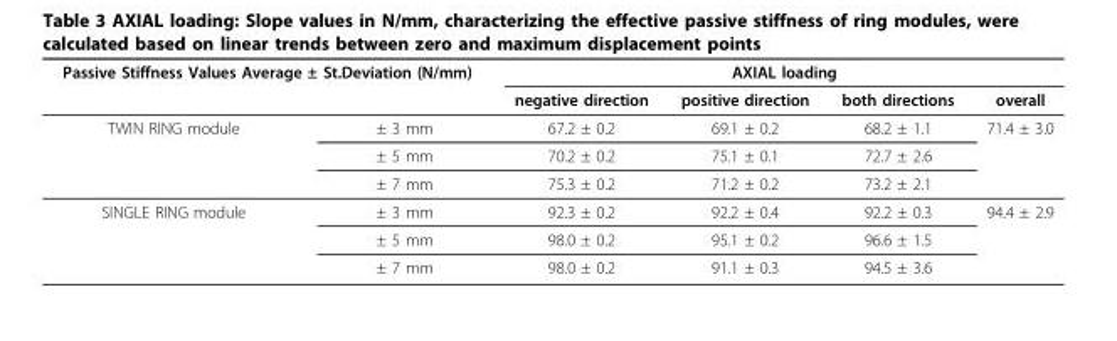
<table><thead><tr><td colspan="2">Passive Stiffness Values Average ± St.Deviation (N/mm)</td><td colspan="4">AXIAL loading</td></tr><tr><td></td><td></td><td>negative direction</td><td>positive direction</td><td>both directions</td><td>overall</td></tr></thead><tbody><tr><td rowspan="3">TWIN RING module</td><td>± 3 mm</td><td>67.2 ± 0.2</td><td>69.1 ± 0.2</td><td>68.2 ± 1.1</td><td>71.4 ± 3.0</td></tr><tr><td>± 5 mm</td><td>70.2 ± 0.2</td><td>75.1 ± 0.1</td><td>72.7 ± 2.6</td><td></td></tr><tr><td>± 7 mm</td><td>75.3 ± 0.2</td><td>71.2 ± 0.2</td><td>73.2 ± 2.1</td><td></td></tr><tr><td rowspan="3">SINGLE RING module</td><td>± 3 mm</td><td>92.3 ± 0.2</td><td>92.2 ± 0.4</td><td>92.2 ± 0.3</td><td>94.4 ± 2.9</td></tr><tr><td>± 5 mm</td><td>98.0 ± 0.2</td><td>95.1 ± 0.2</td><td>96.6 ± 1.5</td><td></td></tr><tr><td>± 7 mm</td><td>98.0 ± 0.2</td><td>91.1 ± 0.3</td><td>94.5 ± 3.6</td><td></td></tr></tbody></table>